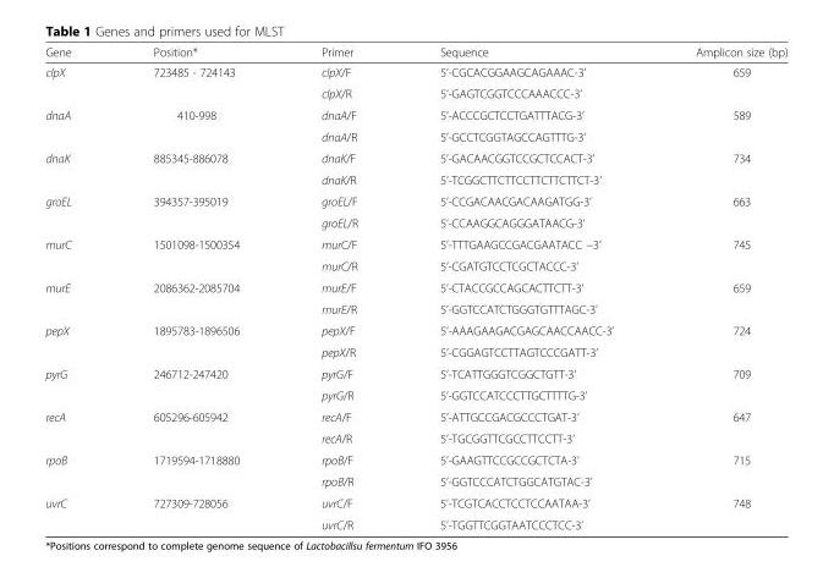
<table><thead><tr><td>Gene</td><td>Position*</td><td>Primer</td><td>Sequence</td><td>Amplicon size (bp)</td></tr></thead><tbody><tr><td rowspan="2">clpX</td><td rowspan="2">723485 - 724143</td><td>clpX/F</td><td>5’-CGCACGGAAGCAGAAAC-3’</td><td rowspan="2">659</td></tr><tr><td>clpX/R</td><td>5’-GAGTCGGTCCCAAACCC-3’</td></tr><tr><td rowspan="2">dnaA</td><td rowspan="2">410-998</td><td>dnaA/F</td><td>5’-ACCCGCTCCTGATTTACG-3’</td><td rowspan="2">589</td></tr><tr><td>dnaA/R</td><td>5’-GCCTCGGTAGCCAGTTTG-3’</td></tr><tr><td rowspan="2">dnaK</td><td rowspan="2">885345-886078</td><td>dnaK/F</td><td>5’-GACAACGGTCCGCTCCACT-3’</td><td rowspan="2">734</td></tr><tr><td>dnaK/R</td><td>5’-TCGGCTTCTTCCTTCTTCTTCT-3’</td></tr><tr><td rowspan="2">groEL</td><td rowspan="2">394357-395019</td><td>groEL/F</td><td>5’-CCGACAACGACAAGATGG-3’</td><td rowspan="2">663</td></tr><tr><td>groEL/R</td><td>5’-CCAAGGCAGGGATAACG-3’</td></tr><tr><td rowspan="2">murC</td><td rowspan="2">1501098-1500354</td><td>murC/F</td><td>5’-TTTGAAGCCGACGAATACC −3’</td><td rowspan="2">745</td></tr><tr><td>murC/R</td><td>5’-CGATGTCCTCGCTACCC-3’</td></tr><tr><td rowspan="2">murE</td><td rowspan="2">2086362-2085704</td><td>murE/F</td><td>5’-CTACCGCCAGCACTTCTT-3’</td><td rowspan="2">659</td></tr><tr><td>murE/R</td><td>5’-GGTCCATCTGGGTGTTTAGC-3’</td></tr><tr><td rowspan="2">pepX</td><td rowspan="2">1895783-1896506</td><td>pepX/F</td><td>5’-AAAGAAGACGAGCAACCAACC-3’</td><td rowspan="2">724</td></tr><tr><td>pepX/R</td><td>5’-CGGAGTCCTTAGTCCCGATT-3’</td></tr><tr><td rowspan="2">pyrG</td><td rowspan="2">246712-247420</td><td>pyrG/F</td><td>5’-TCATTGGGTCGGCTGTT-3’</td><td rowspan="2">709</td></tr><tr><td>pyrG/R</td><td>5’-GGTCCATCCCTTGCTTTTG-3’</td></tr><tr><td rowspan="2">recA</td><td rowspan="2">605296-605942</td><td>recA/F</td><td>5’-ATTGCCGACGCCCTGAT-3’</td><td rowspan="2">647</td></tr><tr><td>recA/R</td><td>5’-TGCGGTTCGCCTTCCTT-3’</td></tr><tr><td rowspan="2">rpoB</td><td rowspan="2">1719594-1718880</td><td>rpoB/F</td><td>5’-GAAGTTCCGCCGCTCTA-3’</td><td rowspan="2">715</td></tr><tr><td>rpoB/R</td><td>5’-GGTCCCATCTGGCATGTAC-3’</td></tr><tr><td rowspan="2">uvrC</td><td rowspan="2">727309-728056</td><td>uvrC/F</td><td>5’-TCGTCACCTCCTCCAATAA-3’</td><td rowspan="2">748</td></tr><tr><td>uvrC/R</td><td>5’-TGGTTCGGTAATCCCTCC-3’</td></tr></tbody></table>